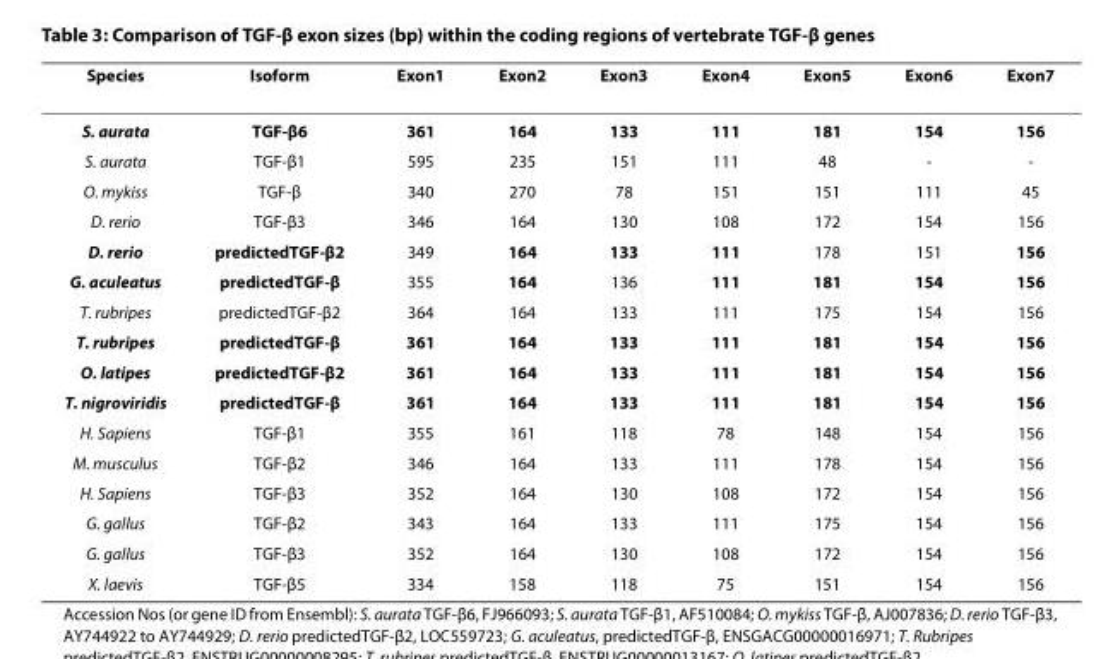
<table><thead><tr><td>Species</td><td>Isoform</td><td>Exon1</td><td>Exon2</td><td>Exon3</td><td>Exon4</td><td>Exon5</td><td>Exon6</td><td>Exon7</td></tr></thead><tbody><tr><td>S. aurata</td><td>TGF-β6</td><td>361</td><td>164</td><td>133</td><td>111</td><td>181</td><td>154</td><td>156</td></tr><tr><td>S. aurata</td><td>TGF-β1</td><td>595</td><td>235</td><td>151</td><td>111</td><td>48</td><td>-</td><td>-</td></tr><tr><td>O. mykiss</td><td>TGF-β</td><td>340</td><td>270</td><td>78</td><td>151</td><td>151</td><td>111</td><td>45</td></tr><tr><td>D. rerio</td><td>TGF-β3</td><td>346</td><td>164</td><td>130</td><td>108</td><td>172</td><td>154</td><td>156</td></tr><tr><td>D. rerio</td><td>predictedTGF-β2</td><td>349</td><td>164</td><td>133</td><td>111</td><td>178</td><td>151</td><td>156</td></tr><tr><td>G. aculeatus</td><td>predictedTGF-β</td><td>355</td><td>164</td><td>136</td><td>111</td><td>181</td><td>154</td><td>156</td></tr><tr><td>T. rubripes</td><td>predictedTGF-β2</td><td>364</td><td>164</td><td>133</td><td>111</td><td>175</td><td>154</td><td>156</td></tr><tr><td>T. rubripes</td><td>predictedTGF-β</td><td>361</td><td>164</td><td>133</td><td>111</td><td>181</td><td>154</td><td>156</td></tr><tr><td>O. latipes</td><td>predictedTGF-β2</td><td>361</td><td>164</td><td>133</td><td>111</td><td>181</td><td>154</td><td>156</td></tr><tr><td>T. nigroviridis</td><td>predictedTGF-β</td><td>361</td><td>164</td><td>133</td><td>111</td><td>181</td><td>154</td><td>156</td></tr><tr><td>H. Sapiens</td><td>TGF-β1</td><td>355</td><td>161</td><td>118</td><td>78</td><td>148</td><td>154</td><td>156</td></tr><tr><td>M. musculus</td><td>TGF-β2</td><td>346</td><td>164</td><td>133</td><td>111</td><td>178</td><td>154</td><td>156</td></tr><tr><td>H. Sapiens</td><td>TGF-β3</td><td>352</td><td>164</td><td>130</td><td>108</td><td>172</td><td>154</td><td>156</td></tr><tr><td>G. gallus</td><td>TGF-β2</td><td>343</td><td>164</td><td>133</td><td>111</td><td>175</td><td>154</td><td>156</td></tr><tr><td>G. gallus</td><td>TGF-β3</td><td>352</td><td>164</td><td>130</td><td>108</td><td>172</td><td>154</td><td>156</td></tr><tr><td>X. laevis</td><td>TGF-β5</td><td>334</td><td>158</td><td>118</td><td>75</td><td>151</td><td>154</td><td>156</td></tr></tbody></table>